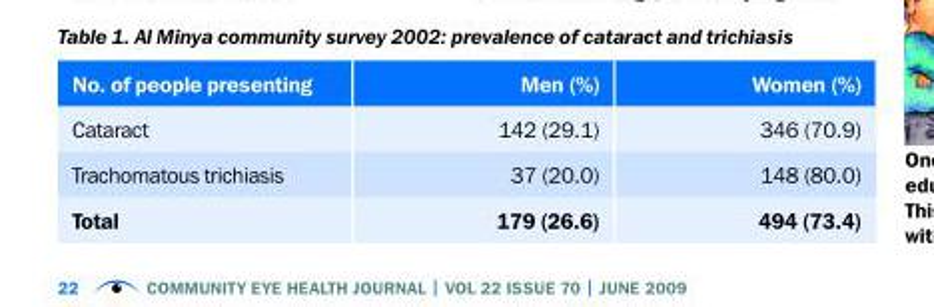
<table><thead><tr><td>no. of people presenting</td><td>men (%)</td><td>Women (%)</td></tr></thead><tbody><tr><td>Cataract</td><td>142 (29.1)</td><td>346 (70.9)</td></tr><tr><td>Trachomatous trichiasis</td><td>37 (20.0)</td><td>148 (80.0)</td></tr><tr><td>total</td><td>179 (26.6)</td><td>494 (73.4)</td></tr></tbody></table>